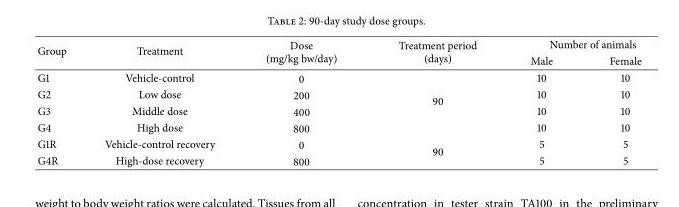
<table><thead><tr><td rowspan="2">Group</td><td rowspan="2">Treatment</td><td rowspan="2">Dose (mg/kg bw/day)</td><td rowspan="2">Treatment period (days)</td><td colspan="2">Number of animals</td></tr><tr><td>Male</td><td>Female</td></tr></thead><tbody><tr><td>G1</td><td>Vehicle-control</td><td>0</td><td rowspan="4">90</td><td>10</td><td>10</td></tr><tr><td>G2</td><td>Low dose</td><td>200</td><td>10</td><td>10</td></tr><tr><td>G3</td><td>Middle dose</td><td>400</td><td>10</td><td>10</td></tr><tr><td>G4</td><td>High dose</td><td>800</td><td>10</td><td>10</td></tr><tr><td>G1R</td><td>Vehicle-control recovery</td><td>0</td><td rowspan="2">90</td><td>5</td><td>5</td></tr><tr><td>G4R</td><td>High-dose recovery</td><td>800</td><td>5</td><td>5</td></tr></tbody></table>